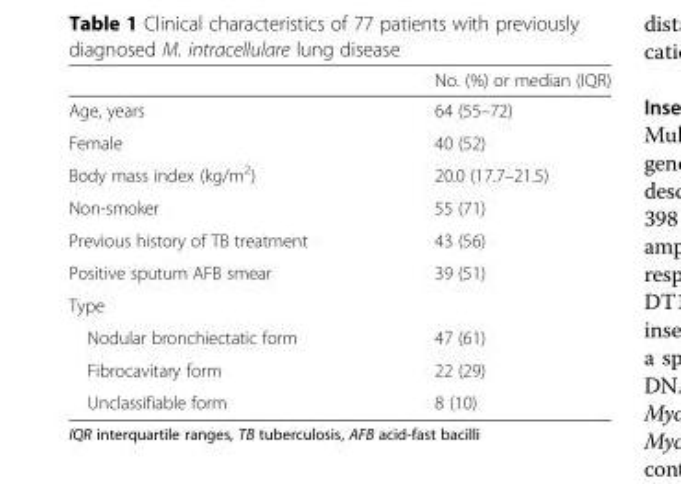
<table><thead><tr><td></td><td>No. (%) or median (IQR)</td></tr></thead><tbody><tr><td>Age, years</td><td>64 (55–72)</td></tr><tr><td>Female</td><td>40 (52)</td></tr><tr><td>Body mass index (kg/m<sup>2</sup>)</td><td>20.0 (17.7–21.5)</td></tr><tr><td>Non-smoker</td><td>55 (71)</td></tr><tr><td>Previous history of TB treatment</td><td>43 (56)</td></tr><tr><td>Positive sputum AFB smear</td><td>39 (51)</td></tr><tr><td colspan="2">Type</td></tr><tr><td>Nodular bronchiectatic form</td><td>47 (61)</td></tr><tr><td>Fibrocavitary form</td><td>22 (29)</td></tr><tr><td>Unclassifiable form</td><td>8 (10)</td></tr></tbody></table>